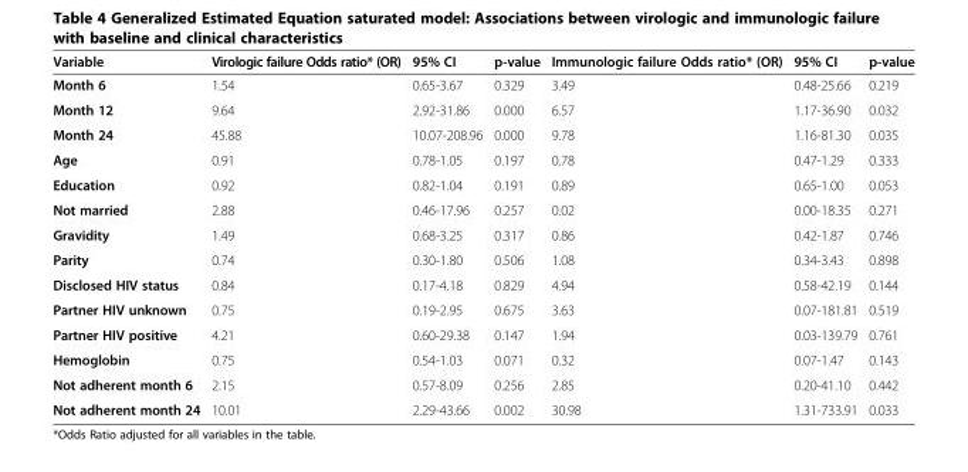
<table><thead><tr><td>Variable</td><td>Virologic failure Odds ratio* (OR)</td><td>95% CI</td><td>p-value</td><td>Immunologic failure Odds ratio* (OR)</td><td>95% CI</td><td>p-value</td></tr></thead><tbody><tr><td>Month 6</td><td>1.54</td><td>0.65-3.67</td><td>0.329</td><td>3.49</td><td>0.48-25.66</td><td>0.219</td></tr><tr><td>Month 12</td><td>9.64</td><td>2.92-31.86</td><td>0.000</td><td>6.57</td><td>1.17-36.90</td><td>0.032</td></tr><tr><td>Month 24</td><td>45.88</td><td>10.07-208.96</td><td>0.000</td><td>9.78</td><td>1.16-81.30</td><td>0.035</td></tr><tr><td>Age</td><td>0.91</td><td>0.78-1.05</td><td>0.197</td><td>0.78</td><td>0.47-1.29</td><td>0.333</td></tr><tr><td>Education</td><td>0.92</td><td>0.82-1.04</td><td>0.191</td><td>0.89</td><td>0.65-1.00</td><td>0.053</td></tr><tr><td>Not married</td><td>2.88</td><td>0.46-17.96</td><td>0.257</td><td>0.02</td><td>0.00-18.35</td><td>0.271</td></tr><tr><td>Gravidity</td><td>1.49</td><td>0.68-3.25</td><td>0.317</td><td>0.86</td><td>0.42-1.87</td><td>0.746</td></tr><tr><td>Parity</td><td>0.74</td><td>0.30-1.80</td><td>0.506</td><td>1.08</td><td>0.34-3.43</td><td>0.898</td></tr><tr><td>Disclosed HIV status</td><td>0.84</td><td>0.17-4.18</td><td>0.829</td><td>4.94</td><td>0.58-42.19</td><td>0.144</td></tr><tr><td>Partner HIV unknown</td><td>0.75</td><td>0.19-2.95</td><td>0.675</td><td>3.63</td><td>0.07-181.81</td><td>0.519</td></tr><tr><td>Partner HIV positive</td><td>4.21</td><td>0.60-29.38</td><td>0.147</td><td>1.94</td><td>0.03-139.79</td><td>0.761</td></tr><tr><td>Hemoglobin</td><td>0.75</td><td>0.54-1.03</td><td>0.071</td><td>0.32</td><td>0.07-1.47</td><td>0.143</td></tr><tr><td>Not adherent month 6</td><td>2.15</td><td>0.57-8.09</td><td>0.256</td><td>2.85</td><td>0.20-41.10</td><td>0.442</td></tr><tr><td>Not adherent month 24</td><td>10.01</td><td>2.29-43.66</td><td>0.002</td><td>30.98</td><td>1.31-733.91</td><td>0.033</td></tr></tbody></table>